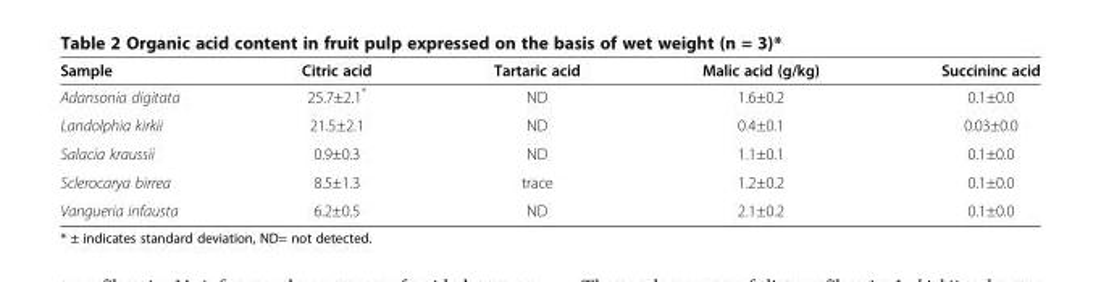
<table><thead><tr><td>Sample</td><td>Citric acid</td><td>Tartaric acid</td><td>Malic acid (g/kg)</td><td>Succininc acid</td></tr></thead><tbody><tr><td>Adansonia digitata</td><td>25.7±2.1*</td><td>ND</td><td>1.6±0.2</td><td>0.1±0.0</td></tr><tr><td>Landolphia kirkii</td><td>21.5±2.1</td><td>ND</td><td>0.4±0.1</td><td>0.03±0.0</td></tr><tr><td>Salacia kraussii</td><td>0.9±0.3</td><td>ND</td><td>1.1±0.1</td><td>0.1±0.0</td></tr><tr><td>Sclerocarya birrea</td><td>8.5±1.3</td><td>trace</td><td>1.2±0.2</td><td>0.1±0.0</td></tr><tr><td>Vangueria infausta</td><td>6.2±0.5</td><td>ND</td><td>2.1±0.2</td><td>0.1±0.0</td></tr></tbody></table>